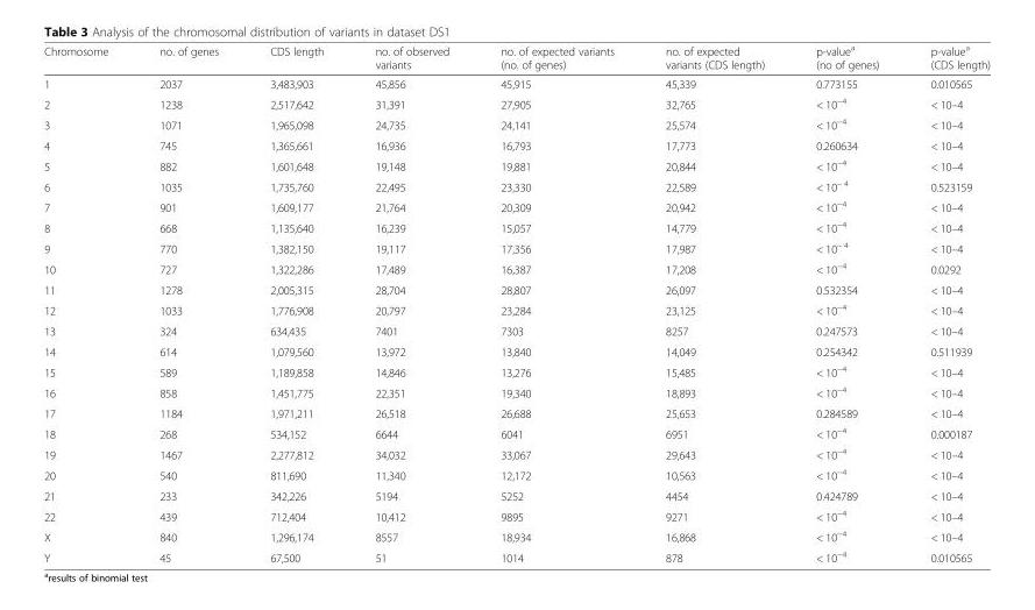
<table><thead><tr><td>Chromosome</td><td>no. of genes</td><td>CDS length</td><td>no. of observed variants</td><td>no. of expected variants (no. of genes)</td><td>no. of expected variants (CDS length)</td><td>p-value<sup>a</sup> (no of genes)</td><td>p-value<sup>a</sup> (CDS length)</td></tr></thead><tbody><tr><td>1</td><td>2037</td><td>3,483,903</td><td>45,856</td><td>45,915</td><td>45,339</td><td>0.773155</td><td>0.010565</td></tr><tr><td>2</td><td>1238</td><td>2,517,642</td><td>31,391</td><td>27,905</td><td>32,765</td><td>&lt; 10<sup>−4</sup></td><td>&lt; 10–4</td></tr><tr><td>3</td><td>1071</td><td>1,965,098</td><td>24,735</td><td>24,141</td><td>25,574</td><td>&lt; 10<sup>−4</sup></td><td>&lt; 10–4</td></tr><tr><td>4</td><td>745</td><td>1,365,661</td><td>16,936</td><td>16,793</td><td>17,773</td><td>0.260634</td><td>&lt; 10–4</td></tr><tr><td>5</td><td>882</td><td>1,601,648</td><td>19,148</td><td>19,881</td><td>20,844</td><td>&lt; 10<sup>−4</sup></td><td>&lt; 10–4</td></tr><tr><td>6</td><td>1035</td><td>1,735,760</td><td>22,495</td><td>23,330</td><td>22,589</td><td>&lt; 10<sup>− 4</sup></td><td>0.523159</td></tr><tr><td>7</td><td>901</td><td>1,609,177</td><td>21,764</td><td>20,309</td><td>20,942</td><td>&lt; 10<sup>−4</sup></td><td>&lt; 10–4</td></tr><tr><td>8</td><td>668</td><td>1,135,640</td><td>16,239</td><td>15,057</td><td>14,779</td><td>&lt; 10<sup>−4</sup></td><td>&lt; 10–4</td></tr><tr><td>9</td><td>770</td><td>1,382,150</td><td>19,117</td><td>17,356</td><td>17,987</td><td>&lt; 10<sup>− 4</sup></td><td>&lt; 10–4</td></tr><tr><td>10</td><td>727</td><td>1,322,286</td><td>17,489</td><td>16,387</td><td>17,208</td><td>&lt; 10<sup>−4</sup></td><td>0.0292</td></tr><tr><td>11</td><td>1278</td><td>2,005,315</td><td>28,704</td><td>28,807</td><td>26,097</td><td>0.532354</td><td>&lt; 10–4</td></tr><tr><td>12</td><td>1033</td><td>1,776,908</td><td>20,797</td><td>23,284</td><td>23,125</td><td>&lt; 10<sup>−4</sup></td><td>&lt; 10–4</td></tr><tr><td>13</td><td>324</td><td>634,435</td><td>7401</td><td>7303</td><td>8257</td><td>0.247573</td><td>&lt; 10–4</td></tr><tr><td>14</td><td>614</td><td>1,079,560</td><td>13,972</td><td>13,840</td><td>14,049</td><td>0.254342</td><td>0.511939</td></tr><tr><td>15</td><td>589</td><td>1,189,858</td><td>14,846</td><td>13,276</td><td>15,485</td><td>&lt; 10<sup>−4</sup></td><td>&lt; 10–4</td></tr><tr><td>16</td><td>858</td><td>1,451,775</td><td>22,351</td><td>19,340</td><td>18,893</td><td>&lt; 10<sup>−4</sup></td><td>&lt; 10–4</td></tr><tr><td>17</td><td>1184</td><td>1,971,211</td><td>26,518</td><td>26,688</td><td>25,653</td><td>0.284589</td><td>&lt; 10–4</td></tr><tr><td>18</td><td>268</td><td>534,152</td><td>6644</td><td>6041</td><td>6951</td><td>&lt; 10<sup>−4</sup></td><td>0.000187</td></tr><tr><td>19</td><td>1467</td><td>2,277,812</td><td>34,032</td><td>33,067</td><td>29,643</td><td>&lt; 10<sup>−4</sup></td><td>&lt; 10–4</td></tr><tr><td>20</td><td>540</td><td>811,690</td><td>11,340</td><td>12,172</td><td>10,563</td><td>&lt; 10<sup>−4</sup></td><td>&lt; 10–4</td></tr><tr><td>21</td><td>233</td><td>342,226</td><td>5194</td><td>5252</td><td>4454</td><td>0.424789</td><td>&lt; 10–4</td></tr><tr><td>22</td><td>439</td><td>712,404</td><td>10,412</td><td>9895</td><td>9271</td><td>&lt; 10<sup>−4</sup></td><td>&lt; 10–4</td></tr><tr><td>X</td><td>840</td><td>1,296,174</td><td>8557</td><td>18,934</td><td>16,868</td><td>&lt; 10<sup>−4</sup></td><td>&lt; 10–4</td></tr><tr><td>Y</td><td>45</td><td>67,500</td><td>51</td><td>1014</td><td>878</td><td>&lt; 10<sup>−4</sup></td><td>0.010565</td></tr></tbody></table>